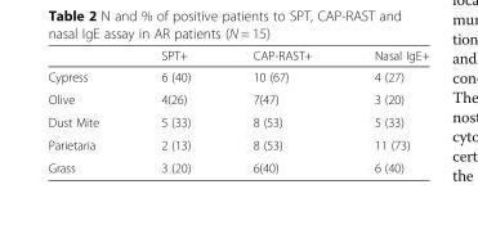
<table><thead><tr><td></td><td>SPT+</td><td>CAP-RAST+</td><td>Nasal IgE+</td></tr></thead><tbody><tr><td>Cypress</td><td>6 (40)</td><td>10 (67)</td><td>4 (27)</td></tr><tr><td>Olive</td><td>4(26)</td><td>7(47)</td><td>3 (20)</td></tr><tr><td>Dust Mite</td><td>5 (33)</td><td>8 (53)</td><td>5 (33)</td></tr><tr><td>Parietaria</td><td>2 (13)</td><td>8 (53)</td><td>11 (73)</td></tr><tr><td>Grass</td><td>3 (20)</td><td>6(40)</td><td>6 (40)</td></tr></tbody></table>